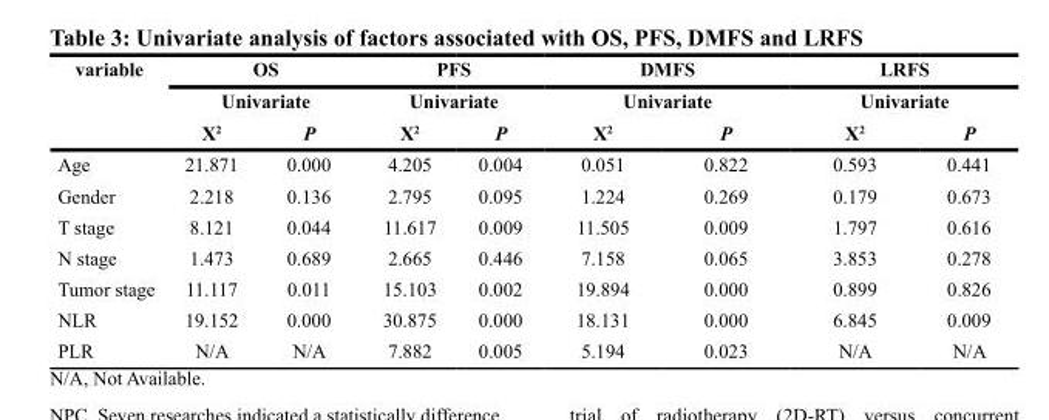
<table><thead><tr><td rowspan="3">variable</td><td rowspan="2" colspan="2">OS Univariate</td><td rowspan="2" colspan="2">PFS Univariate</td><td rowspan="2" colspan="2">DMFS Univariate</td><td rowspan="2" colspan="2">LRFS Univariate</td></tr><tr></tr><tr><td>X<sup>2</sup></td><td>P</td><td>X<sup>2</sup></td><td>P</td><td>X<sup>2</sup></td><td>P</td><td>X<sup>2</sup></td><td>P</td></tr></thead><tbody><tr><td>Age</td><td>21.871</td><td>0.000</td><td>4.205</td><td>0.004</td><td>0.051</td><td>0.822</td><td>0.593</td><td>0.441</td></tr><tr><td>Gender</td><td>2.218</td><td>0.136</td><td>2.795</td><td>0.095</td><td>1.224</td><td>0.269</td><td>0.179</td><td>0.673</td></tr><tr><td>T stage</td><td>8.121</td><td>0.044</td><td>11.617</td><td>0.009</td><td>11.505</td><td>0.009</td><td>1.797</td><td>0.616</td></tr><tr><td>N stage</td><td>1.473</td><td>0.689</td><td>2.665</td><td>0.446</td><td>7.158</td><td>0.065</td><td>3.853</td><td>0.278</td></tr><tr><td>Tumor stage</td><td>11.117</td><td>0.011</td><td>15.103</td><td>0.002</td><td>19.894</td><td>0.000</td><td>0.899</td><td>0.826</td></tr><tr><td>NLR</td><td>19.152</td><td>0.000</td><td>30.875</td><td>0.000</td><td>18.131</td><td>0.000</td><td>6.845</td><td>0.009</td></tr><tr><td>PLR</td><td>N/A</td><td>N/A</td><td>7.882</td><td>0.005</td><td>5.194</td><td>0.023</td><td>N/A</td><td>N/A</td></tr></tbody></table>